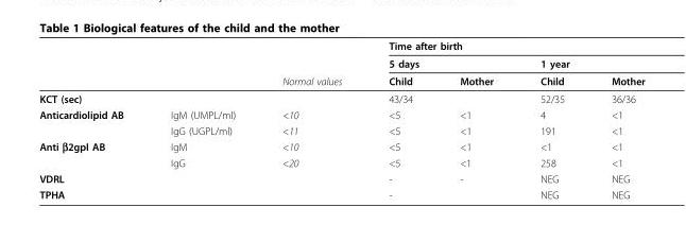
<table><thead><tr><td rowspan="3"></td><td rowspan="3"></td><td rowspan="3">Normal values</td><td colspan="4">Time after birth</td></tr><tr><td colspan="2">5 days</td><td colspan="2">1 year</td></tr><tr><td>Child</td><td>Mother</td><td>Child</td><td>Mother</td></tr></thead><tbody><tr><td>KCT (sec)</td><td></td><td></td><td>43/34</td><td></td><td>52/35</td><td>36/36</td></tr><tr><td rowspan="2">Anticardiolipid AB</td><td>IgM (UMPL/ml)</td><td>&lt;10</td><td>&lt;5</td><td>&lt;1</td><td>4</td><td>&lt;1</td></tr><tr><td>IgG (UGPL/ml)</td><td>&lt;11</td><td>&lt;5</td><td>&lt;1</td><td>191</td><td>&lt;1</td></tr><tr><td rowspan="2">Anti β2gpI AB</td><td>IgM</td><td>&lt;10</td><td>&lt;5</td><td>&lt;1</td><td>&lt;1</td><td>&lt;1</td></tr><tr><td>IgG</td><td>&lt;20</td><td>&lt;5</td><td>&lt;1</td><td>258</td><td>&lt;1</td></tr><tr><td>VDRL</td><td></td><td></td><td>-</td><td>-</td><td>NEG</td><td>NEG</td></tr><tr><td>TPHA</td><td></td><td></td><td>-</td><td></td><td>NEG</td><td>NEG</td></tr></tbody></table>